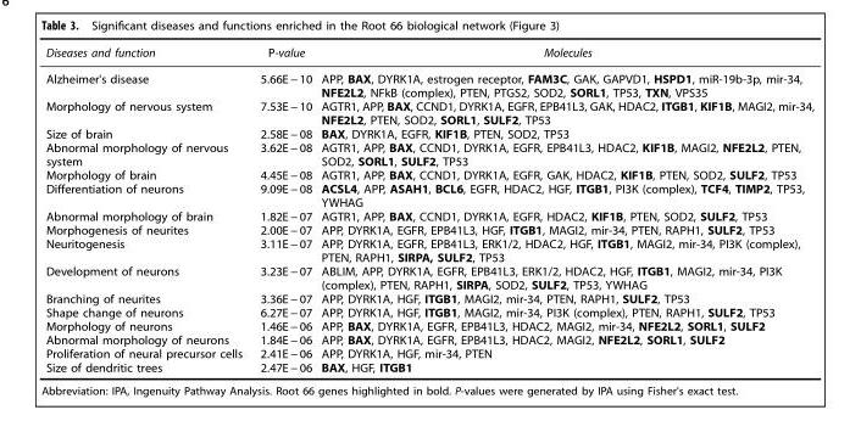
<table><thead><tr><td>Diseases and function</td><td>P-value</td><td>Molecules</td></tr></thead><tbody><tr><td>Alzheimer&#x27;s disease</td><td>5.66E − 10</td><td>APP, BAX, DYRK1A, estrogen receptor, FAM3C, GAK, GAPVD1, HSPD1, miR-19b-3p, mir-34, NFE2L2, NFkB (complex), PTEN, PTGS2, SOD2, SORL1, TP53, TXN, VPS35</td></tr><tr><td>Morphology of nervous system</td><td>7.53E − 10</td><td>AGTR1, APP, BAX, CCND1, DYRK1A, EGFR, EPB41L3, GAK, HDAC2, ITGB1, KIF1B, MAGI2, mir-34, NFE2L2, PTEN, SOD2, SORL1, SULF2, TP53</td></tr><tr><td>Size of brain</td><td>2.58E − 08</td><td>BAX, DYRK1A, EGFR, KIF1B, PTEN, SOD2, TP53</td></tr><tr><td>Abnormal morphology of nervous system</td><td>3.62E − 08</td><td>AGTR1, APP, BAX, CCND1, DYRK1A, EGFR, EPB41L3, HDAC2, KIF1B, MAGI2, NFE2L2, PTEN, SOD2, SORL1, SULF2, TP53</td></tr><tr><td>Morphology of brain</td><td>4.45E − 08</td><td>AGTR1, APP, BAX, CCND1, DYRK1A, EGFR, GAK, HDAC2, KIF1B, PTEN, SOD2, SULF2, TP53</td></tr><tr><td>Differentiation of neurons</td><td>9.09E − 08</td><td>ACSL4, APP, ASAH1, BCL6, EGFR, HDAC2, HGF, ITGB1, PI3K (complex), TCF4, TIMP2, TP53, YWHAG</td></tr><tr><td>Abnormal morphology of brain</td><td>1.82E − 07</td><td>AGTR1, APP, BAX, CCND1, DYRK1A, EGFR, HDAC2, KIF1B, PTEN, SOD2, SULF2, TP53</td></tr><tr><td>Morphogenesis of neurites</td><td>2.00E − 07</td><td>APP, DYRK1A, EGFR, EPB41L3, HGF, ITGB1, MAGI2, mir-34, PTEN, RAPH1, SULF2, TP53</td></tr><tr><td>Neuritogenesis</td><td>3.11E − 07</td><td>APP, DYRK1A, EGFR, EPB41L3, ERK1/2, HDAC2, HGF, ITGB1, MAGI2, mir-34, PI3K (complex), PTEN, RAPH1, SIRPA, SULF2, TP53</td></tr><tr><td>Development of neurons</td><td>3.23E − 07</td><td>ABLIM, APP, DYRK1A, EGFR, EPB41L3, ERK1/2, HDAC2, HGF, ITGB1, MAGI2, mir-34, PI3K (complex), PTEN, RAPH1, SIRPA, SOD2, SULF2, TP53, YWHAG</td></tr><tr><td>Branching of neurites</td><td>3.36E − 07</td><td>APP, DYRK1A, HGF, ITGB1, MAGI2, mir-34, PTEN, RAPH1, SULF2, TP53</td></tr><tr><td>Shape change of neurons</td><td>6.27E − 07</td><td>APP, DYRK1A, HGF, ITGB1, MAGI2, mir-34, PI3K (complex), PTEN, RAPH1, SULF2, TP53</td></tr><tr><td>Morphology of neurons</td><td>1.46E − 06</td><td>APP, BAX, DYRK1A, EGFR, EPB41L3, HDAC2, MAGI2, mir-34, NFE2L2, SORL1, SULF2</td></tr><tr><td>Abnormal morphology of neurons</td><td>1.84E − 06</td><td>APP, BAX, DYRK1A, EGFR, EPB41L3, HDAC2, MAGI2, NFE2L2, SORL1, SULF2</td></tr><tr><td>Proliferation of neural precursor cells</td><td>2.41E − 06</td><td>APP, DYRK1A, HGF, mir-34, PTEN</td></tr><tr><td>Size of dendritic trees</td><td>2.47E − 06</td><td>BAX, HGF, ITGB1</td></tr></tbody></table>